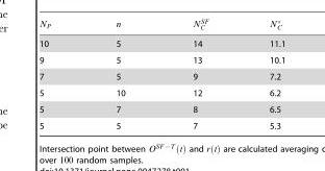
<table><tbody><tr><td>10</td><td>5</td><td>14</td><td>11.1</td></tr><tr><td>9</td><td>5</td><td>13</td><td>10.1</td></tr><tr><td>7</td><td>5</td><td>9</td><td>7.2</td></tr><tr><td>5</td><td>10</td><td>12</td><td>6.2</td></tr><tr><td>5</td><td>7</td><td>8</td><td>6.5</td></tr><tr><td>5</td><td>5</td><td>7</td><td>5.3</td></tr></tbody></table>